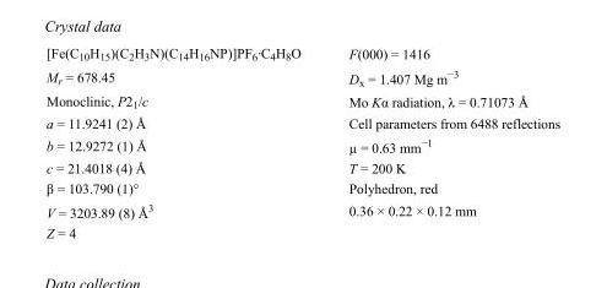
<table><tbody><tr><td>[Fe(C<sub>10</sub>H<sub>15</sub>)(C<sub>2</sub>H<sub>3</sub>N)(C<sub>14</sub>H<sub>16</sub>NP)]PF<sub>6</sub>·C<sub>4</sub>H<sub>8</sub>O</td><td>F(000) = 1416</td></tr><tr><td>M<sub>r</sub> = 678.45</td><td>D<sub>x</sub> = 1.407 Mg m<sup>−3</sup></td></tr><tr><td>Monoclinic, P2<sub>1</sub>/c</td><td>Mo Kα radiation, λ = 0.71073 Å</td></tr><tr><td>a = 11.9241 (2) Å</td><td>Cell parameters from 6488 reflections</td></tr><tr><td>b = 12.9272 (1) Å</td><td>µ = 0.63 mm<sup>−1</sup></td></tr><tr><td>c = 21.4018 (4) Å</td><td>T = 200 K</td></tr><tr><td>β = 103.790 (1)°</td><td>Polyhedron, red</td></tr><tr><td>V = 3203.89 (8) Å<sup>3</sup></td><td>0.36 × 0.22 × 0.12 mm</td></tr><tr><td>Z = 4</td><td></td></tr></tbody></table>